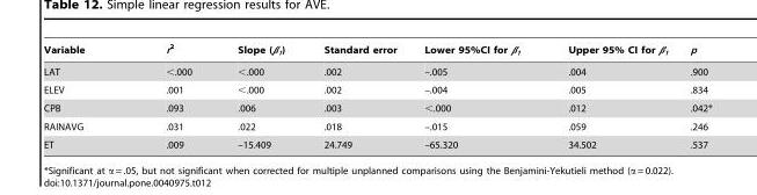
<table><thead><tr><td>Variable</td><td>r<sup>2</sup></td><td>Slope (β<sub>1</sub>)</td><td>Standard error</td><td>Lower 95%CI for β<sub>1</sub></td><td>Upper 95% CI for β<sub>1</sub></td><td>p</td></tr></thead><tbody><tr><td>LAT</td><td>&lt;.000</td><td>&lt;.000</td><td>.002</td><td>–.005</td><td>.004</td><td>.900</td></tr><tr><td>ELEV</td><td>.001</td><td>&lt;.000</td><td>.002</td><td>–.004</td><td>.005</td><td>.834</td></tr><tr><td>CPB</td><td>.093</td><td>.006</td><td>.003</td><td>&lt;.000</td><td>.012</td><td>.042*</td></tr><tr><td>RAINAVG</td><td>.031</td><td>.022</td><td>.018</td><td>–.015</td><td>.059</td><td>.246</td></tr><tr><td>ET</td><td>.009</td><td>–15.409</td><td>24.749</td><td>–65.320</td><td>34.502</td><td>.537</td></tr></tbody></table>